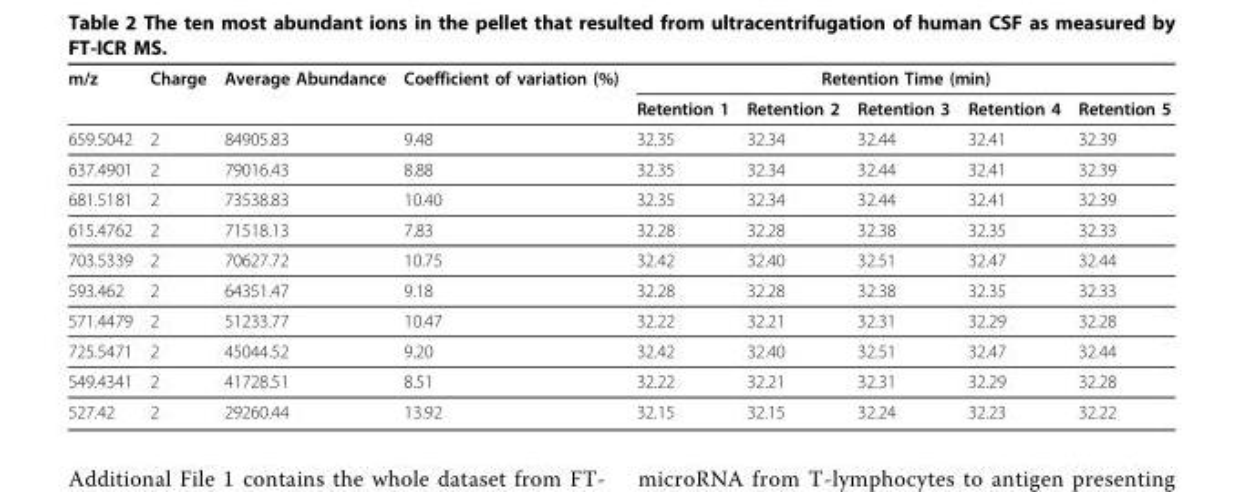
<table><thead><tr><td rowspan="2">m/z</td><td rowspan="2">Charge</td><td rowspan="2">Average Abundance</td><td rowspan="2">Coefficient of variation (%)</td><td colspan="5">Retention Time (min)</td></tr><tr><td>Retention 1</td><td>Retention 2</td><td>Retention 3</td><td>Retention 4</td><td>Retention 5</td></tr></thead><tbody><tr><td>659.5042</td><td>2</td><td>84905.83</td><td>9.48</td><td>32.35</td><td>32.34</td><td>32.44</td><td>32.41</td><td>32.39</td></tr><tr><td>637.4901</td><td>2</td><td>79016.43</td><td>8.88</td><td>32.35</td><td>32.34</td><td>32.44</td><td>32.41</td><td>32.39</td></tr><tr><td>681.5181</td><td>2</td><td>73538.83</td><td>10.40</td><td>32.35</td><td>32.34</td><td>32.44</td><td>32.41</td><td>32.39</td></tr><tr><td>615.4762</td><td>2</td><td>71518.13</td><td>7.83</td><td>32.28</td><td>32.28</td><td>32.38</td><td>32.35</td><td>32.33</td></tr><tr><td>703.5339</td><td>2</td><td>70627.72</td><td>10.75</td><td>32.42</td><td>32.40</td><td>32.51</td><td>32.47</td><td>32.44</td></tr><tr><td>593.462</td><td>2</td><td>64351.47</td><td>9.18</td><td>32.28</td><td>32.28</td><td>32.38</td><td>32.35</td><td>32.33</td></tr><tr><td>571.4479</td><td>2</td><td>51233.77</td><td>10.47</td><td>32.22</td><td>32.21</td><td>32.31</td><td>32.29</td><td>32.28</td></tr><tr><td>725.5471</td><td>2</td><td>45044.52</td><td>9.20</td><td>32.42</td><td>32.40</td><td>32.51</td><td>32.47</td><td>32.44</td></tr><tr><td>549.4341</td><td>2</td><td>41728.51</td><td>8.51</td><td>32.22</td><td>32.21</td><td>32.31</td><td>32.29</td><td>32.28</td></tr><tr><td>527.42</td><td>2</td><td>29260.44</td><td>13.92</td><td>32.15</td><td>32.15</td><td>32.24</td><td>32.23</td><td>32.22</td></tr></tbody></table>